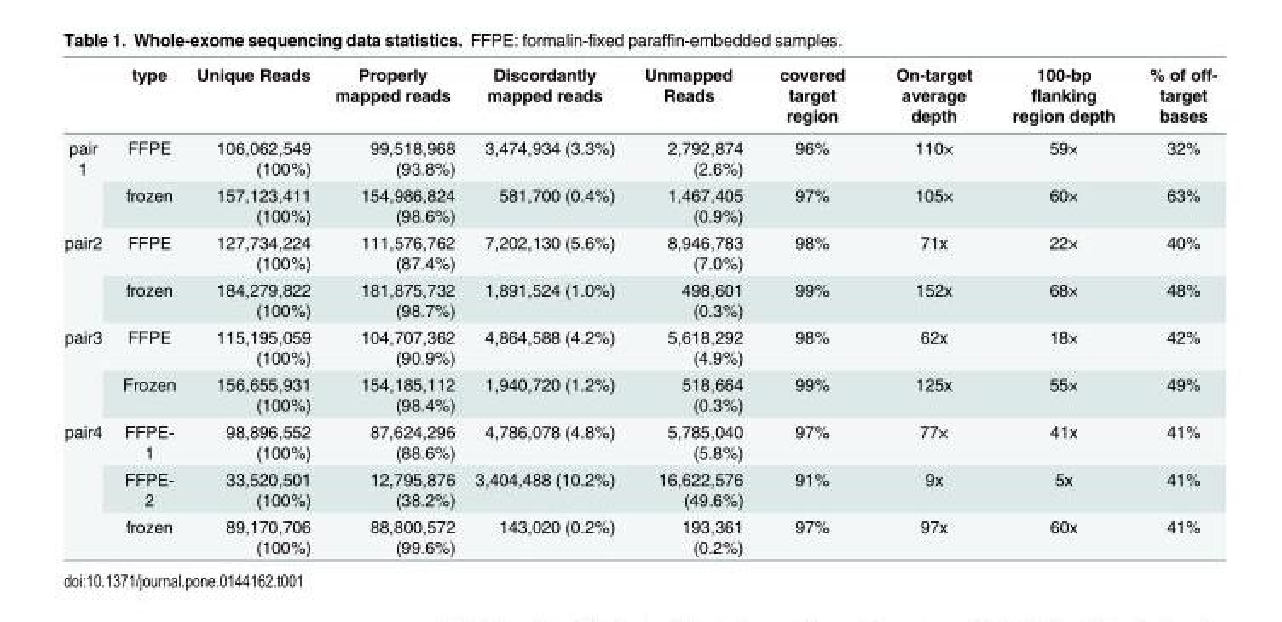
<table><thead><tr><td></td><td>type</td><td>Unique Reads</td><td>Properly mapped reads</td><td>Discordantly mapped reads</td><td>Unmapped Reads</td><td>covered target region</td><td>On-target average depth</td><td>100-bp flanking region depth</td><td>% of off- target bases</td></tr></thead><tbody><tr><td rowspan="2">pair 1</td><td>FFPE</td><td>106,062,549 (100%)</td><td>99,518,968 (93.8%)</td><td>3,474,934 (3.3%)</td><td>2,792,874 (2.6%)</td><td>96%</td><td>110×</td><td>59×</td><td>32%</td></tr><tr><td>frozen</td><td>157,123,411 (100%)</td><td>154,986,824 (98.6%)</td><td>581,700 (0.4%)</td><td>1,467,405 (0.9%)</td><td>97%</td><td>105×</td><td>60×</td><td>63%</td></tr><tr><td rowspan="2">pair2</td><td>FFPE</td><td>127,734,224 (100%)</td><td>111,576,762 (87.4%)</td><td>7,202,130 (5.6%)</td><td>8,946,783 (7.0%)</td><td>98%</td><td>71x</td><td>22×</td><td>40%</td></tr><tr><td>frozen</td><td>184,279,822 (100%)</td><td>181,875,732 (98.7%)</td><td>1,891,524 (1.0%)</td><td>498,601 (0.3%)</td><td>99%</td><td>152x</td><td>68×</td><td>48%</td></tr><tr><td rowspan="2">pair3</td><td>FFPE</td><td>115,195,059 (100%)</td><td>104,707,362 (90.9%)</td><td>4,864,588 (4.2%)</td><td>5,618,292 (4.9%)</td><td>98%</td><td>62x</td><td>18×</td><td>42%</td></tr><tr><td>Frozen</td><td>156,655,931 (100%)</td><td>154,185,112 (98.4%)</td><td>1,940,720 (1.2%)</td><td>518,664 (0.3%)</td><td>99%</td><td>125x</td><td>55×</td><td>49%</td></tr><tr><td rowspan="3">pair4</td><td>FFPE- 1</td><td>98,896,552 (100%)</td><td>87,624,296 (88.6%)</td><td>4,786,078 (4.8%)</td><td>5,785,040 (5.8%)</td><td>97%</td><td>77×</td><td>41x</td><td>41%</td></tr><tr><td>FFPE- 2</td><td>33,520,501 (100%)</td><td>12,795,876 (38.2%)</td><td>3,404,488 (10.2%)</td><td>16,622,576 (49.6%)</td><td>91%</td><td>9x</td><td>5x</td><td>41%</td></tr><tr><td>frozen</td><td>89,170,706 (100%)</td><td>88,800,572 (99.6%)</td><td>143,020 (0.2%)</td><td>193,361 (0.2%)</td><td>97%</td><td>97x</td><td>60x</td><td>41%</td></tr></tbody></table>